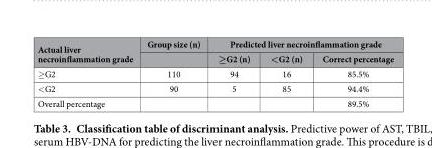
<table><thead><tr><td rowspan="2">Actual liver necroinflammation grade</td><td rowspan="2">Group size (n)</td><td colspan="3">Predicted liver necroinflammation grade</td></tr><tr><td>≥G2 (n)</td><td>&lt;G2 (n)</td><td>Correct percentage</td></tr></thead><tbody><tr><td>≥ G2</td><td>110</td><td>94</td><td>16</td><td>85.5%</td></tr><tr><td>&lt; G2</td><td>90</td><td>5</td><td>85</td><td>94.4%</td></tr><tr><td>Overall percentage</td><td></td><td></td><td></td><td>89.5%</td></tr></tbody></table>